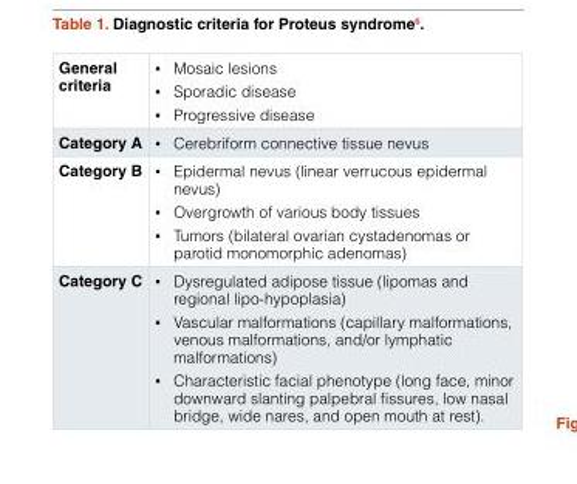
<table><tbody><tr><td>General criteria</td><td>▪ Mosaic lesions ▪ Sporadic disease ▪ Progressive disease</td></tr><tr><td>Category A</td><td>▪ Cerebriform connective tissue nevus</td></tr><tr><td>Category B</td><td>▪ Epidermal nevus (linear verrucous epidermal nevus) ▪ Overgrowth of various body tissues ▪ Tumors (bilateral ovarian cystadenomas or parotid monomorphic adenomas)</td></tr><tr><td>Category C</td><td>▪ Dysregulated adipose tissue (lipomas and regional lipo-hypoplasia) ▪ Vascular malformations (capillary malformations, venous malformations, and/or lymphatic malformations) ▪ Characteristic facial phenotype (long face, minor downward slanting palpebral fissures, low nasal bridge, wide nares, and open mouth at rest).</td></tr></tbody></table>